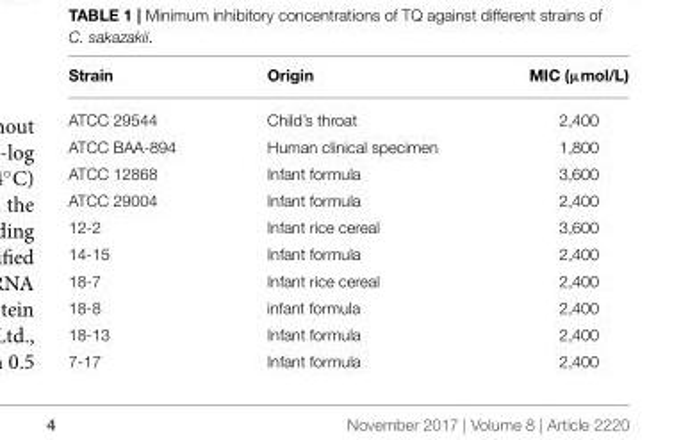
<table><thead><tr><td>Strain</td><td>Origin</td><td>MIC (µmol/L)</td></tr></thead><tbody><tr><td>ATCC 29544</td><td>Child’s throat</td><td>2,400</td></tr><tr><td>ATCC BAA-894</td><td>Human clinical specimen</td><td>1,800</td></tr><tr><td>ATCC 12868</td><td>Infant formula</td><td>3,600</td></tr><tr><td>ATCC 29004</td><td>Infant formula</td><td>2,400</td></tr><tr><td>12-2</td><td>Infant rice cereal</td><td>3,600</td></tr><tr><td>14-15</td><td>Infant formula</td><td>2,400</td></tr><tr><td>18-7</td><td>Infant rice cereal</td><td>2,400</td></tr><tr><td>18-8</td><td>infant formula</td><td>2,400</td></tr><tr><td>18-13</td><td>Infant formula</td><td>2,400</td></tr><tr><td>7-17</td><td>Infant formula</td><td>2,400</td></tr></tbody></table>